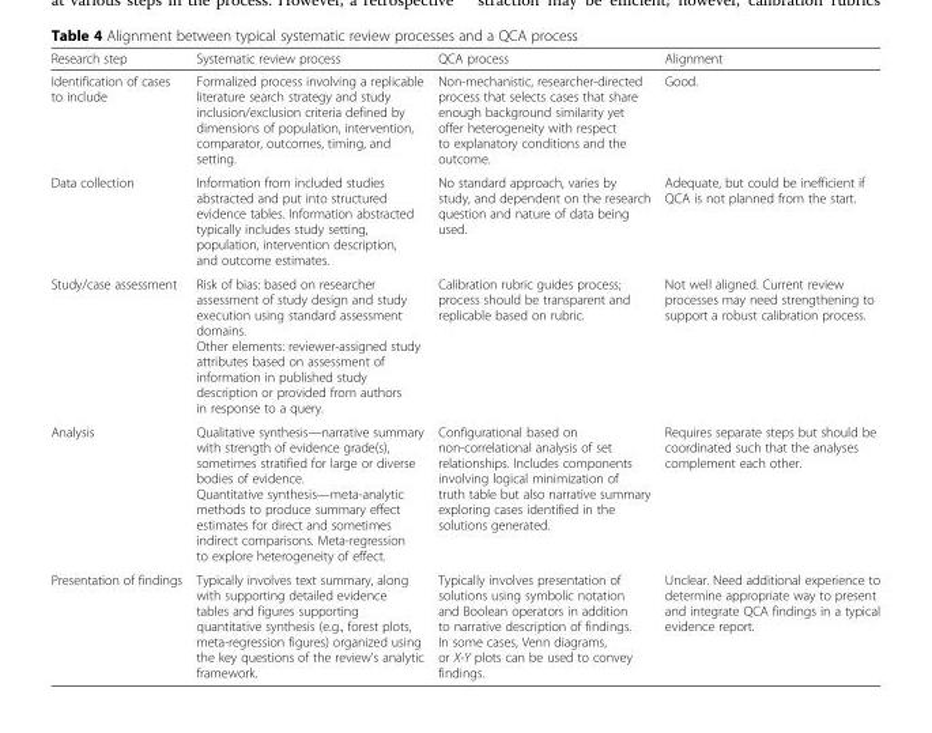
<table><thead><tr><td>Research step</td><td>Systematic review process</td><td>QCA process</td><td>Alignment</td></tr></thead><tbody><tr><td>Identification of cases to include</td><td>Formalized process involving a replicable literature search strategy and study inclusion/exclusion criteria defined by dimensions of population, intervention, comparator, outcomes, timing, and setting.</td><td>Non-mechanistic, researcher-directed process that selects cases that share enough background similarity yet offer heterogeneity with respect to explanatory conditions and the outcome.</td><td>Good.</td></tr><tr><td>Data collection</td><td>Information from included studies abstracted and put into structured evidence tables. Information abstracted typically includes study setting, population, intervention description, and outcome estimates.</td><td>No standard approach, varies by study, and dependent on the research question and nature of data being used.</td><td>Adequate, but could be inefficient if QCA is not planned from the start.</td></tr><tr><td>Study/case assessment</td><td>Risk of bias: based on researcher assessment of study design and study execution using standard assessment domains. Other elements: reviewer-assigned study attributes based on assessment of information in published study description or provided from authors in response to a query.</td><td>Calibration rubric guides process; process should be transparent and replicable based on rubric.</td><td>Not well aligned. Current review processes may need strengthening to support a robust calibration process.</td></tr><tr><td>Analysis</td><td>Qualitative synthesis—narrative summary with strength of evidence grade(s), sometimes stratified for large or diverse bodies of evidence. Quantitative synthesis—meta-analytic methods to produce summary effect estimates for direct and sometimes indirect comparisons. Meta-regression to explore heterogeneity of effect.</td><td>Configurational based on non-correlational analysis of set relationships. Includes components involving logical minimization of truth table but also narrative summary exploring cases identified in the solutions generated.</td><td>Requires separate steps but should be coordinated such that the analyses complement each other.</td></tr><tr><td>Presentation of findings</td><td>Typically involves text summary, along with supporting detailed evidence tables and figures supporting quantitative synthesis (e.g., forest plots, meta-regression figures) organized using the key questions of the review’s analytic framework.</td><td>Typically involves presentation of solutions using symbolic notation and Boolean operators in addition to narrative description of findings. In some cases, Venn diagrams, or X-Y plots can be used to convey findings.</td><td>Unclear. Need additional experience to determine appropriate way to present and integrate QCA findings in a typical evidence report.</td></tr></tbody></table>